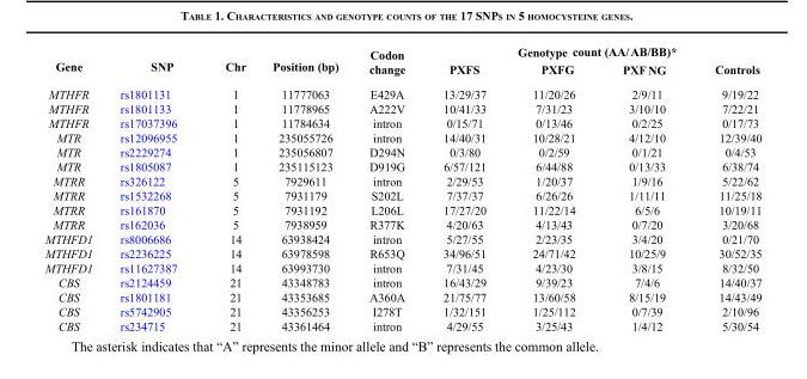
<table><thead><tr><td rowspan="2">Gene</td><td rowspan="2">SNP</td><td rowspan="2">Chr</td><td rowspan="2">Position (bp)</td><td rowspan="2">Codon change</td><td colspan="4">Genotype count (AA/AB/BB)*</td></tr><tr><td>PXFS</td><td>PXFG</td><td>PXF NG</td><td>Controls</td></tr></thead><tbody><tr><td>MTHFR</td><td>rs1801131</td><td>1</td><td>11777063</td><td>E429A</td><td>13/29/37</td><td>11/20/26</td><td>2/9/11</td><td>9/19/22</td></tr><tr><td>MTHFR</td><td>rs1801133</td><td>1</td><td>11778965</td><td>A222V</td><td>10/41/33</td><td>7/31/23</td><td>3/10/10</td><td>7/22/21</td></tr><tr><td>MTHFR</td><td>rs17037396</td><td>1</td><td>11784634</td><td>intron</td><td>0/15/71</td><td>0/13/46</td><td>0/2/25</td><td>0/17/73</td></tr><tr><td>MTR</td><td>rs12096955</td><td>1</td><td>235055726</td><td>intron</td><td>14/40/31</td><td>10/28/21</td><td>4/12/10</td><td>12/39/40</td></tr><tr><td>MTR</td><td>rs2229274</td><td>1</td><td>235056807</td><td>D294N</td><td>0/3/80</td><td>0/2/59</td><td>0/1/21</td><td>0/4/53</td></tr><tr><td>MTR</td><td>rs1805087</td><td>1</td><td>235115123</td><td>D919G</td><td>6/57/121</td><td>6/44/88</td><td>0/13/33</td><td>6/38/74</td></tr><tr><td>MTRR</td><td>rs326122</td><td>5</td><td>7929611</td><td>intron</td><td>2/29/53</td><td>1/20/37</td><td>1/9/16</td><td>5/22/62</td></tr><tr><td>MTRR</td><td>rs1532268</td><td>5</td><td>7931179</td><td>S202L</td><td>7/37/37</td><td>6/26/26</td><td>1/11/11</td><td>11/25/18</td></tr><tr><td>MTRR</td><td>rs161870</td><td>5</td><td>7931192</td><td>L206L</td><td>17/27/20</td><td>11/22/14</td><td>6/5/6</td><td>10/19/11</td></tr><tr><td>MTRR</td><td>rs162036</td><td>5</td><td>7938959</td><td>R377K</td><td>4/20/63</td><td>4/13/43</td><td>0/7/20</td><td>3/20/68</td></tr><tr><td>MTHFD1</td><td>rs8006686</td><td>14</td><td>63938424</td><td>intron</td><td>5/27/55</td><td>2/23/35</td><td>3/4/20</td><td>0/21/70</td></tr><tr><td>MTHFD1</td><td>rs2236225</td><td>14</td><td>63978598</td><td>R653Q</td><td>34/96/51</td><td>24/71/42</td><td>10/25/9</td><td>30/52/35</td></tr><tr><td>MTHFD1</td><td>rs11627387</td><td>14</td><td>63993730</td><td>intron</td><td>7/31/45</td><td>4/23/30</td><td>3/8/15</td><td>8/32/50</td></tr><tr><td>CBS</td><td>rs2124459</td><td>21</td><td>43348783</td><td>intron</td><td>16/43/29</td><td>9/39/23</td><td>7/4/6</td><td>14/40/37</td></tr><tr><td>CBS</td><td>rs1801181</td><td>21</td><td>43353685</td><td>A360A</td><td>21/75/77</td><td>13/60/58</td><td>8/15/19</td><td>14/43/49</td></tr><tr><td>CBS</td><td>rs5742905</td><td>21</td><td>43356253</td><td>I278T</td><td>1/32/151</td><td>1/25/112</td><td>0/7/39</td><td>2/10/96</td></tr><tr><td>CBS</td><td>rs234715</td><td>21</td><td>43361464</td><td>intron</td><td>4/29/55</td><td>3/25/43</td><td>1/4/12</td><td>5/30/54</td></tr></tbody></table>